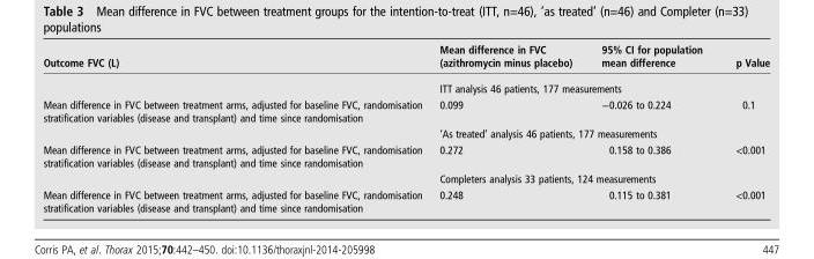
<table><thead><tr><td>Outcome FVC (L)</td><td>Mean difference in FVC (azithromycin minus placebo)</td><td>95% CI for population mean difference</td><td>p Value</td></tr></thead><tbody><tr><td></td><td colspan="2">ITT analysis 46 patients, 177 measurements</td><td></td></tr><tr><td rowspan="2">Mean difference in FVC between treatment arms, adjusted for baseline FVC, randomisation stratification variables (disease and transplant) and time since randomisation</td><td>0.099</td><td>−0.026 to 0.224</td><td>0.1</td></tr><tr><td colspan="2">‘As treated’ analysis 46 patients, 177 measurements</td><td></td></tr><tr><td rowspan="2">Mean difference in FVC between treatment arms, adjusted for baseline FVC, randomisation stratification variables (disease and transplant) and time since randomisation</td><td>0.272</td><td>0.158 to 0.386</td><td>&lt;0.001</td></tr><tr><td colspan="2">Completers analysis 33 patients, 124 measurements</td><td></td></tr><tr><td>Mean difference in FVC between treatment arms, adjusted for baseline FVC, randomisation stratification variables (disease and transplant) and time since randomisation</td><td>0.248</td><td>0.115 to 0.381</td><td>&lt;0.001</td></tr></tbody></table>